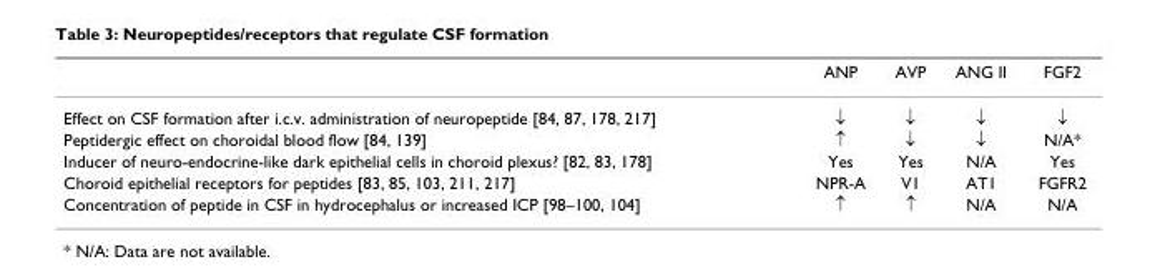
<table><thead><tr><td></td><td>ANP</td><td>AVP</td><td>ANG II</td><td>FGF2</td></tr></thead><tbody><tr><td>Effect on CSF formation after i.c.v. administration of neuropeptide [84, 87, 178, 217]</td><td>↓</td><td>↓</td><td>↓</td><td>↓</td></tr><tr><td>Peptidergic effect on choroidal blood flow [84, 139]</td><td>↑</td><td>↓</td><td>↓</td><td>N/A*</td></tr><tr><td>Inducer of neuro-endocrine-like dark epithelial cells in choroid plexus? [82, 83, 178]</td><td>Yes</td><td>Yes</td><td>N/A</td><td>Yes</td></tr><tr><td>Choroid epithelial receptors for peptides [83, 85, 103, 211, 217]</td><td>NPR-A</td><td>V1</td><td>AT1</td><td>FGFR2</td></tr><tr><td>Concentration of peptide in CSF in hydrocephalus or increased ICP [98–100, 104]</td><td>↑</td><td>↑</td><td>N/A</td><td>N/A</td></tr></tbody></table>